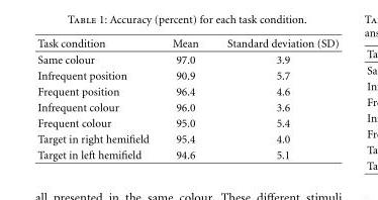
<table><thead><tr><td>Task condition</td><td>Mean</td><td>Standard deviation (SD)</td></tr></thead><tbody><tr><td>Same colour</td><td>97.0</td><td>3.9</td></tr><tr><td>Infrequent position</td><td>90.9</td><td>5.7</td></tr><tr><td>Frequent position</td><td>96.4</td><td>4.6</td></tr><tr><td>Infrequent colour</td><td>96.0</td><td>3.6</td></tr><tr><td>Frequent colour</td><td>95.0</td><td>5.4</td></tr><tr><td>Target in right hemifield</td><td>95.4</td><td>4.0</td></tr><tr><td>Target in left hemifield</td><td>94.6</td><td>5.1</td></tr></tbody></table>